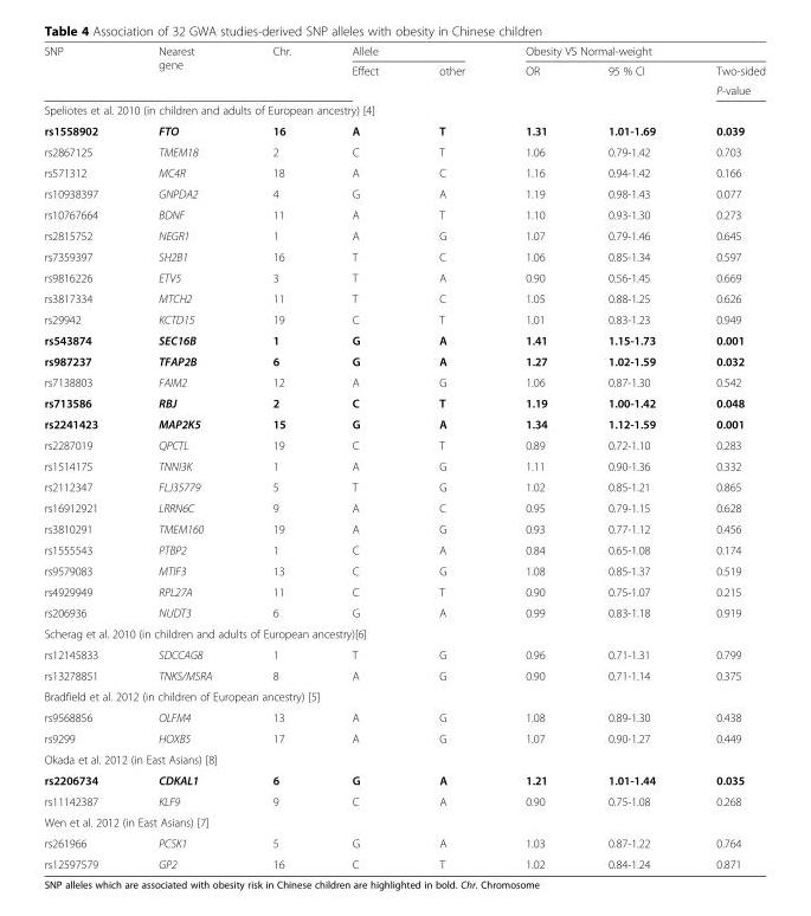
<table><thead><tr><td rowspan="3">SNP</td><td rowspan="3">Nearest gene</td><td rowspan="3">Chr.</td><td colspan="2">Allele</td><td colspan="3">Obesity VS Normal-weight</td></tr><tr><td rowspan="2">Effect</td><td rowspan="2">other</td><td rowspan="2">OR</td><td rowspan="2">95 % CI</td><td rowspan="2">Two-sided P-value</td></tr><tr></tr></thead><tbody><tr><td colspan="8">Speliotes et al. 2010 (in children and adults of European ancestry) [4]</td></tr><tr><td>rs1558902</td><td>FTO</td><td>16</td><td>A</td><td>T</td><td>1.31</td><td>1.01-1.69</td><td>0.039</td></tr><tr><td>rs2867125</td><td>TMEM18</td><td>2</td><td>C</td><td>T</td><td>1.06</td><td>0.79-1.42</td><td>0.703</td></tr><tr><td>rs571312</td><td>MC4R</td><td>18</td><td>A</td><td>C</td><td>1.16</td><td>0.94-1.42</td><td>0.166</td></tr><tr><td>rs10938397</td><td>GNPDA2</td><td>4</td><td>G</td><td>A</td><td>1.19</td><td>0.98-1.43</td><td>0.077</td></tr><tr><td>rs10767664</td><td>BDNF</td><td>11</td><td>A</td><td>T</td><td>1.10</td><td>0.93-1.30</td><td>0.273</td></tr><tr><td>rs2815752</td><td>NEGR1</td><td>1</td><td>A</td><td>G</td><td>1.07</td><td>0.79-1.46</td><td>0.645</td></tr><tr><td>rs7359397</td><td>SH2B1</td><td>16</td><td>T</td><td>C</td><td>1.06</td><td>0.85-1.34</td><td>0.597</td></tr><tr><td>rs9816226</td><td>ETV5</td><td>3</td><td>T</td><td>A</td><td>0.90</td><td>0.56-1.45</td><td>0.669</td></tr><tr><td>rs3817334</td><td>MTCH2</td><td>11</td><td>T</td><td>C</td><td>1.05</td><td>0.88-1.25</td><td>0.626</td></tr><tr><td>rs29942</td><td>KCTD15</td><td>19</td><td>C</td><td>T</td><td>1.01</td><td>0.83-1.23</td><td>0.949</td></tr><tr><td>rs543874</td><td>SEC16B</td><td>1</td><td>G</td><td>A</td><td>1.41</td><td>1.15-1.73</td><td>0.001</td></tr><tr><td>rs987237</td><td>TFAP2B</td><td>6</td><td>G</td><td>A</td><td>1.27</td><td>1.02-1.59</td><td>0.032</td></tr><tr><td>rs7138803</td><td>FAIM2</td><td>12</td><td>A</td><td>G</td><td>1.06</td><td>0.87-1.30</td><td>0.542</td></tr><tr><td>rs713586</td><td>RBJ</td><td>2</td><td>C</td><td>T</td><td>1.19</td><td>1.00-1.42</td><td>0.048</td></tr><tr><td>rs2241423</td><td>MAP2K5</td><td>15</td><td>G</td><td>A</td><td>1.34</td><td>1.12-1.59</td><td>0.001</td></tr><tr><td>rs2287019</td><td>QPCTL</td><td>19</td><td>C</td><td>T</td><td>0.89</td><td>0.72-1.10</td><td>0.283</td></tr><tr><td>rs1514175</td><td>TNNI3K</td><td>1</td><td>A</td><td>G</td><td>1.11</td><td>0.90-1.36</td><td>0.332</td></tr><tr><td>rs2112347</td><td>FLJ35779</td><td>5</td><td>T</td><td>G</td><td>1.02</td><td>0.85-1.21</td><td>0.865</td></tr><tr><td>rs16912921</td><td>LRRN6C</td><td>9</td><td>A</td><td>C</td><td>0.95</td><td>0.79-1.15</td><td>0.628</td></tr><tr><td>rs3810291</td><td>TMEM160</td><td>19</td><td>A</td><td>G</td><td>0.93</td><td>0.77-1.12</td><td>0.456</td></tr><tr><td>rs1555543</td><td>PTBP2</td><td>1</td><td>C</td><td>A</td><td>0.84</td><td>0.65-1.08</td><td>0.174</td></tr><tr><td>rs9579083</td><td>MTIF3</td><td>13</td><td>C</td><td>G</td><td>1.08</td><td>0.85-1.37</td><td>0.519</td></tr><tr><td>rs4929949</td><td>RPL27A</td><td>11</td><td>C</td><td>T</td><td>0.90</td><td>0.75-1.07</td><td>0.215</td></tr><tr><td>rs206936</td><td>NUDT3</td><td>6</td><td>G</td><td>A</td><td>0.99</td><td>0.83-1.18</td><td>0.919</td></tr><tr><td colspan="8">Scherag et al. 2010 (in children and adults of European ancestry)[6]</td></tr><tr><td>rs12145833</td><td>SDCCAG8</td><td>1</td><td>T</td><td>G</td><td>0.96</td><td>0.71-1.31</td><td>0.799</td></tr><tr><td>rs13278851</td><td>TNKS/MSRA</td><td>8</td><td>A</td><td>G</td><td>0.90</td><td>0.71-1.14</td><td>0.375</td></tr><tr><td colspan="8">Bradfield et al. 2012 (in children of European ancestry) [5]</td></tr><tr><td>rs9568856</td><td>OLFM4</td><td>13</td><td>A</td><td>G</td><td>1.08</td><td>0.89-1.30</td><td>0.438</td></tr><tr><td>rs9299</td><td>HOXB5</td><td>17</td><td>A</td><td>G</td><td>1.07</td><td>0.90-1.27</td><td>0.449</td></tr><tr><td colspan="8">Okada et al. 2012 (in East Asians) [8]</td></tr><tr><td>rs2206734</td><td>CDKAL1</td><td>6</td><td>G</td><td>A</td><td>1.21</td><td>1.01-1.44</td><td>0.035</td></tr><tr><td>rs11142387</td><td>KLF9</td><td>9</td><td>C</td><td>A</td><td>0.90</td><td>0.75-1.08</td><td>0.268</td></tr><tr><td colspan="8">Wen et al. 2012 (in East Asians) [7]</td></tr><tr><td>rs261966</td><td>PCSK1</td><td>5</td><td>G</td><td>A</td><td>1.03</td><td>0.87-1.22</td><td>0.764</td></tr><tr><td>rs12597579</td><td>GP2</td><td>16</td><td>C</td><td>T</td><td>1.02</td><td>0.84-1.24</td><td>0.871</td></tr></tbody></table>